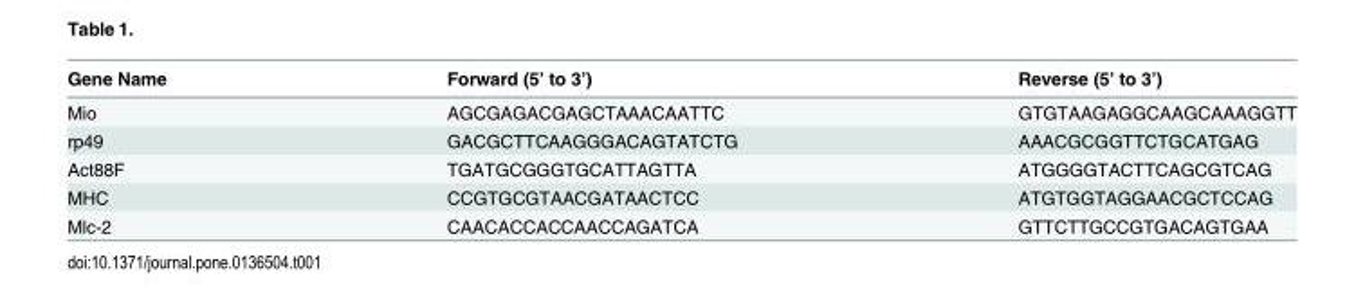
<table><thead><tr><td>Gene Name</td><td>Forward (5’ to 3’)</td><td>Reverse (5’ to 3’)</td></tr></thead><tbody><tr><td>Mio</td><td>AGCGAGACGAGCTAAACAATTC</td><td>GTGTAAGAGGCAAGCAAAGGTT</td></tr><tr><td>rp49</td><td>GACGCTTCAAGGGACAGTATCTG</td><td>AAACGCGGTTCTGCATGAG</td></tr><tr><td>Act88F</td><td>TGATGCGGGTGCATTAGTTA</td><td>ATGGGGTACTTCAGCGTCAG</td></tr><tr><td>MHC</td><td>CCGTGCGTAACGATAACTCC</td><td>ATGTGGTAGGAACGCTCCAG</td></tr><tr><td>Mlc-2</td><td>CAACACCACCAACCAGATCA</td><td>GTTCTTGCCGTGACAGTGAA</td></tr></tbody></table>